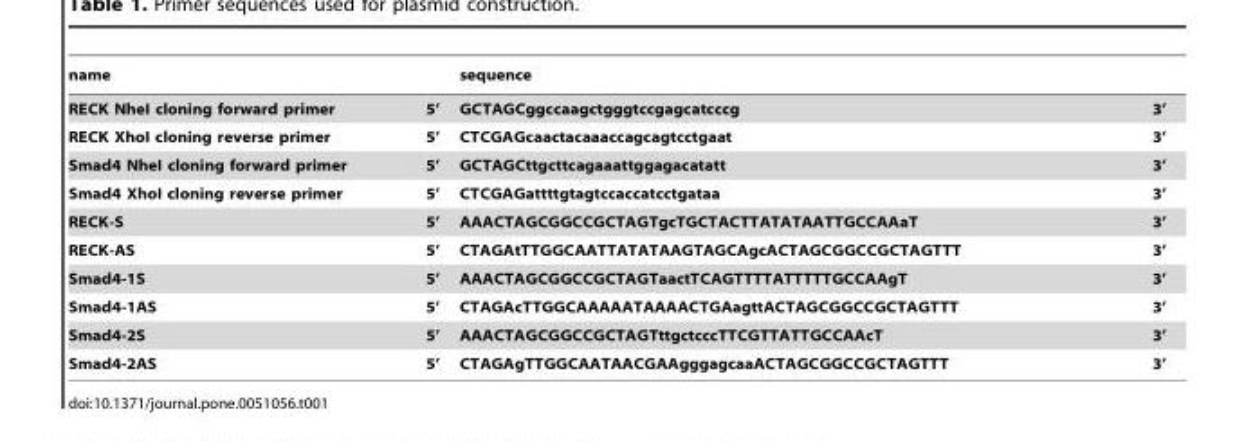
<table><thead><tr><td>name</td><td></td><td>sequence</td><td></td></tr></thead><tbody><tr><td>RECK NheI cloning forward primer</td><td>5’</td><td>GCTAGCggccaagctgggtccgagcatcccg</td><td>3’</td></tr><tr><td>RECK XhoI cloning reverse primer</td><td>5’</td><td>CTCGAGcaactacaaaccagcagtcctgaat</td><td>3’</td></tr><tr><td>Smad4 NheI cloning forward primer</td><td>5’</td><td>GCTAGCttgcttcagaaattggagacatatt</td><td>3’</td></tr><tr><td>Smad4 XhoI cloning reverse primer</td><td>5’</td><td>CTCGAGattttgtagtccaccatcctgataa</td><td>3’</td></tr><tr><td>RECK-S</td><td>5’</td><td>AAACTAGCGGCCGCTAGTgcTGCTACTTATATAATTGCCAAaT</td><td>3’</td></tr><tr><td>RECK-AS</td><td>5’</td><td>CTAGAtTTGGCAATTATATAAGTAGCAgcACTAGCGGCCGCTAGTTT</td><td>3’</td></tr><tr><td>Smad4-1S</td><td>5’</td><td>AAACTAGCGGCCGCTAGTaactTCAGTTTTATTTTTGCCAAgT</td><td>3’</td></tr><tr><td>Smad4-1AS</td><td>5’</td><td>CTAGAcTTGGCAAAAATAAAACTGAagttACTAGCGGCCGCTAGTTT</td><td>3’</td></tr><tr><td>Smad4-2S</td><td>5’</td><td>AAACTAGCGGCCGCTAGTttgctcccTTCGTTATTGCCAAcT</td><td>3’</td></tr><tr><td>Smad4-2AS</td><td>5’</td><td>CTAGAgTTGGCAATAACGAAgggagcaaACTAGCGGCCGCTAGTTT</td><td>3’</td></tr></tbody></table>